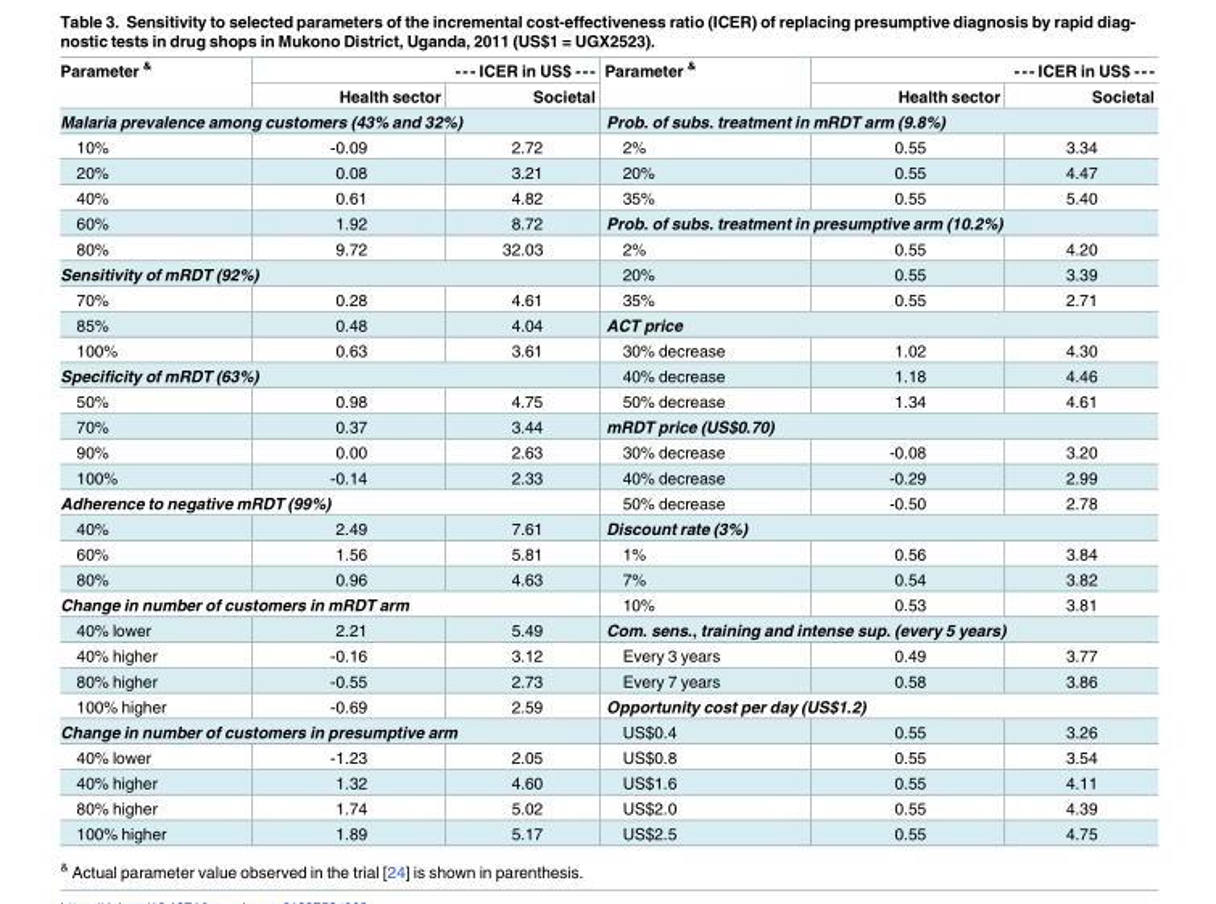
<table><thead><tr><td rowspan="2">Parameter <sup>&amp;</sup></td><td colspan="2">--- ICER in US$ ---</td><td rowspan="2">Parameter <sup>&amp;</sup></td><td colspan="2">--- ICER in US$ ---</td></tr><tr><td>Health sector</td><td>Societal</td><td>Health sector</td><td>Societal</td></tr></thead><tbody><tr><td colspan="3">Malaria prevalence among customers (43% and 32%)</td><td colspan="3">Prob. of subs. treatment in mRDT arm (9.8%)</td></tr><tr><td>10%</td><td>-0.09</td><td>2.72</td><td>2%</td><td>0.55</td><td>3.34</td></tr><tr><td>20%</td><td>0.08</td><td>3.21</td><td>20%</td><td>0.55</td><td>4.47</td></tr><tr><td>40%</td><td>0.61</td><td>4.82</td><td>35%</td><td>0.55</td><td>5.40</td></tr><tr><td>60%</td><td>1.92</td><td>8.72</td><td colspan="3">Prob. of subs. treatment in presumptive arm (10.2%)</td></tr><tr><td>80%</td><td>9.72</td><td>32.03</td><td>2%</td><td>0.55</td><td>4.20</td></tr><tr><td colspan="3">Sensitivity of mRDT (92%)</td><td>20%</td><td>0.55</td><td>3.39</td></tr><tr><td>70%</td><td>0.28</td><td>4.61</td><td>35%</td><td>0.55</td><td>2.71</td></tr><tr><td>85%</td><td>0.48</td><td>4.04</td><td colspan="3">ACT price</td></tr><tr><td>100%</td><td>0.63</td><td>3.61</td><td>30% decrease</td><td>1.02</td><td>4.30</td></tr><tr><td colspan="3">Specificity of mRDT (63%)</td><td>40% decrease</td><td>1.18</td><td>4.46</td></tr><tr><td>50%</td><td>0.98</td><td>4.75</td><td>50% decrease</td><td>1.34</td><td>4.61</td></tr><tr><td>70%</td><td>0.37</td><td>3.44</td><td colspan="3">mRDT price (US$0.70)</td></tr><tr><td>90%</td><td>0.00</td><td>2.63</td><td>30% decrease</td><td>-0.08</td><td>3.20</td></tr><tr><td>100%</td><td>-0.14</td><td>2.33</td><td>40% decrease</td><td>-0.29</td><td>2.99</td></tr><tr><td colspan="3">Adherence to negative mRDT (99%)</td><td>50% decrease</td><td>-0.50</td><td>2.78</td></tr><tr><td>40%</td><td>2.49</td><td>7.61</td><td colspan="3">Discount rate (3%)</td></tr><tr><td>60%</td><td>1.56</td><td>5.81</td><td>1%</td><td>0.56</td><td>3.84</td></tr><tr><td>80%</td><td>0.96</td><td>4.63</td><td>7%</td><td>0.54</td><td>3.82</td></tr><tr><td colspan="3">Change in number of customers in mRDT arm</td><td>10%</td><td>0.53</td><td>3.81</td></tr><tr><td>40% lower</td><td>2.21</td><td>5.49</td><td colspan="3">Com. sens., training and intense sup. (every 5 years)</td></tr><tr><td>40% higher</td><td>-0.16</td><td>3.12</td><td>Every 3 years</td><td>0.49</td><td>3.77</td></tr><tr><td>80% higher</td><td>-0.55</td><td>2.73</td><td>Every 7 years</td><td>0.58</td><td>3.86</td></tr><tr><td>100% higher</td><td>-0.69</td><td>2.59</td><td colspan="3">Opportunity cost per day (US$1.2)</td></tr><tr><td colspan="3">Change in number of customers in presumptive arm</td><td>US$0.4</td><td>0.55</td><td>3.26</td></tr><tr><td>40% lower</td><td>-1.23</td><td>2.05</td><td>US$0.8</td><td>0.55</td><td>3.54</td></tr><tr><td>40% higher</td><td>1.32</td><td>4.60</td><td>US$1.6</td><td>0.55</td><td>4.11</td></tr><tr><td>80% higher</td><td>1.74</td><td>5.02</td><td>US$2.0</td><td>0.55</td><td>4.39</td></tr><tr><td>100% higher</td><td>1.89</td><td>5.17</td><td>US$2.5</td><td>0.55</td><td>4.75</td></tr></tbody></table>